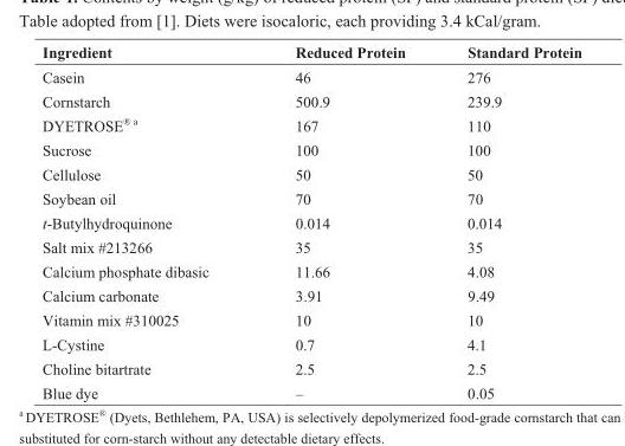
<table><thead><tr><td>Ingredient</td><td>Reduced Protein</td><td>Standard Protein</td></tr></thead><tbody><tr><td>Casein</td><td>46</td><td>276</td></tr><tr><td>Cornstarch</td><td>500.9</td><td>239.9</td></tr><tr><td>DYETROSE<sup>® a</sup></td><td>167</td><td>110</td></tr><tr><td>Sucrose</td><td>100</td><td>100</td></tr><tr><td>Cellulose</td><td>50</td><td>50</td></tr><tr><td>Soybean oil</td><td>70</td><td>70</td></tr><tr><td>t-Butylhydroquinone</td><td>0.014</td><td>0.014</td></tr><tr><td>Salt mix #213266</td><td>35</td><td>35</td></tr><tr><td>Calcium phosphate dibasic</td><td>11.66</td><td>4.08</td></tr><tr><td>Calcium carbonate</td><td>3.91</td><td>9.49</td></tr><tr><td>Vitamin mix #310025</td><td>10</td><td>10</td></tr><tr><td>L-Cystine</td><td>0.7</td><td>4.1</td></tr><tr><td>Choline bitartrate</td><td>2.5</td><td>2.5</td></tr><tr><td>Blue dye</td><td>–</td><td>0.05</td></tr></tbody></table>